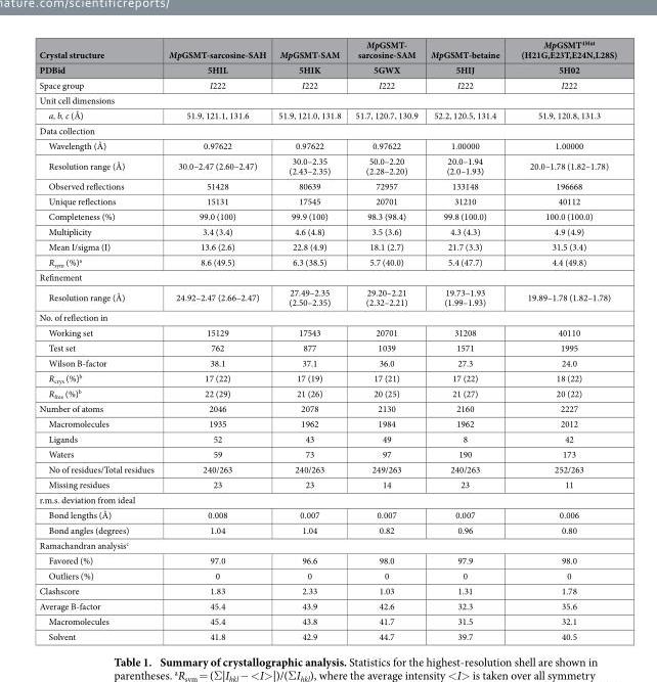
<table><thead><tr><td rowspan="2">Crystal structure PDBid</td><td rowspan="2">MpGSMT-sarcosine-SAH 5HIL</td><td rowspan="2">MpGSMT-SAM 5HIK</td><td rowspan="2">MpGSMT- sarcosine-SAM 5GWX</td><td rowspan="2">MpGSMT-betaine 5HIJ</td><td rowspan="2">MpGSMT<sup>4Mut</sup> (H21G,E23T,E24N,L28S) 5H02</td></tr><tr></tr></thead><tbody><tr><td>Space group</td><td>I222</td><td>I222</td><td>I222</td><td>I222</td><td>I222</td></tr><tr><td colspan="6">Unit cell dimensions</td></tr><tr><td>a, b, c (Å)</td><td>51.9, 121.1, 131.6</td><td>51.9, 121.0, 131.8</td><td>51.7, 120.7, 130.9</td><td>52.2, 120.5, 131.4</td><td>51.9, 120.8, 131.3</td></tr><tr><td colspan="6">Data collection</td></tr><tr><td>Wavelength (Å)</td><td>0.97622</td><td>0.97622</td><td>0.97622</td><td>1.00000</td><td>1.00000</td></tr><tr><td>Resolution range (Å)</td><td>30.0–2.47 (2.60–2.47)</td><td>30.0–2.35 (2.43–2.35)</td><td>50.0–2.20 (2.28–2.20)</td><td>20.0–1.94 (2.0–1.93)</td><td>20.0–1.78 (1.82–1.78)</td></tr><tr><td>Observed reflections</td><td>51428</td><td>80639</td><td>72957</td><td>133148</td><td>196668</td></tr><tr><td>Unique reflections</td><td>15131</td><td>17545</td><td>20701</td><td>31210</td><td>40112</td></tr><tr><td>Completeness (%)</td><td>99.0 (100)</td><td>99.9 (100)</td><td>98.3 (98.4)</td><td>99.8 (100.0)</td><td>100.0 (100.0)</td></tr><tr><td>Multiplicity</td><td>3.4 (3.4)</td><td>4.6 (4.8)</td><td>3.5 (3.6)</td><td>4.3 (4.3)</td><td>4.9 (4.9)</td></tr><tr><td>Mean I/sigma (I)</td><td>13.6 (2.6)</td><td>22.8 (4.9)</td><td>18.1 (2.7)</td><td>21.7 (3.3)</td><td>31.5 (3.4)</td></tr><tr><td>R<sub>sym</sub> (%)<sup>a</sup></td><td>8.6 (49.5)</td><td>6.3 (38.5)</td><td>5.7 (40.0)</td><td>5.4 (47.7)</td><td>4.4 (49.8)</td></tr><tr><td colspan="6">Refinement</td></tr><tr><td>Resolution range (Å)</td><td>24.92–2.47 (2.66–2.47)</td><td>27.49–2.35 (2.50–2.35)</td><td>29.20–2.21 (2.32–2.21)</td><td>19.73–1.93 (1.99–1.93)</td><td>19.89–1.78 (1.82–1.78)</td></tr><tr><td colspan="6">No. of reflection in</td></tr><tr><td>Working set</td><td>15129</td><td>17543</td><td>20701</td><td>31208</td><td>40110</td></tr><tr><td>Test set</td><td>762</td><td>877</td><td>1039</td><td>1571</td><td>1995</td></tr><tr><td>Wilson B-factor</td><td>38.1</td><td>37.1</td><td>36.0</td><td>27.3</td><td>24.0</td></tr><tr><td>R<sub>crys</sub> (%)<sup>b</sup></td><td>17 (22)</td><td>17 (19)</td><td>17 (21)</td><td>17 (22)</td><td>18 (22)</td></tr><tr><td>R<sub>free</sub> (%)<sup>b</sup></td><td>22 (29)</td><td>21 (26)</td><td>20 (25)</td><td>21 (27)</td><td>20 (22)</td></tr><tr><td>Number of atoms</td><td>2046</td><td>2078</td><td>2130</td><td>2160</td><td>2227</td></tr><tr><td>Macromolecules</td><td>1935</td><td>1962</td><td>1984</td><td>1962</td><td>2012</td></tr><tr><td>Ligands</td><td>52</td><td>43</td><td>49</td><td>8</td><td>42</td></tr><tr><td>Waters</td><td>59</td><td>73</td><td>97</td><td>190</td><td>173</td></tr><tr><td>No of residues/Total residues</td><td>240/263</td><td>240/263</td><td>249/263</td><td>240/263</td><td>252/263</td></tr><tr><td>Missing residues</td><td>23</td><td>23</td><td>14</td><td>23</td><td>11</td></tr><tr><td colspan="6">r.m.s. deviation from ideal</td></tr><tr><td>Bond lengths (Å)</td><td>0.008</td><td>0.007</td><td>0.007</td><td>0.007</td><td>0.006</td></tr><tr><td>Bond angles (degrees)</td><td>1.04</td><td>1.04</td><td>0.82</td><td>0.96</td><td>0.80</td></tr><tr><td colspan="6">Ramachandran analysis<sup>c</sup></td></tr><tr><td>Favored (%)</td><td>97.0</td><td>96.6</td><td>98.0</td><td>97.9</td><td>98.0</td></tr><tr><td>Outliers (%)</td><td>0</td><td>0</td><td>0</td><td>0</td><td>0</td></tr><tr><td>Clashscore</td><td>1.83</td><td>2.33</td><td>1.03</td><td>1.31</td><td>1.78</td></tr><tr><td>Average B-factor</td><td>45.4</td><td>43.9</td><td>42.6</td><td>32.3</td><td>35.6</td></tr><tr><td>Macromolecules</td><td>45.4</td><td>43.8</td><td>41.7</td><td>31.5</td><td>32.1</td></tr><tr><td>Solvent</td><td>41.8</td><td>42.9</td><td>44.7</td><td>39.7</td><td>40.5</td></tr></tbody></table>